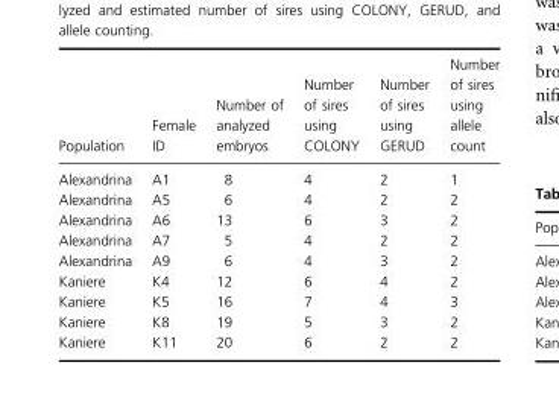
<table><thead><tr><td>Population</td><td>Female ID</td><td>Number of analyzed embryos</td><td>Number of sires using COLONY</td><td>Number of sires using GERUD</td><td>Number of sires using allele count</td></tr></thead><tbody><tr><td>Alexandrina</td><td>A1</td><td>8</td><td>4</td><td>2</td><td>1</td></tr><tr><td>Alexandrina</td><td>A5</td><td>6</td><td>4</td><td>2</td><td>2</td></tr><tr><td>Alexandrina</td><td>A6</td><td>13</td><td>6</td><td>3</td><td>2</td></tr><tr><td>Alexandrina</td><td>A7</td><td>5</td><td>4</td><td>2</td><td>2</td></tr><tr><td>Alexandrina</td><td>A9</td><td>6</td><td>4</td><td>3</td><td>2</td></tr><tr><td>Kaniere</td><td>K4</td><td>12</td><td>6</td><td>4</td><td>2</td></tr><tr><td>Kaniere</td><td>K5</td><td>16</td><td>7</td><td>4</td><td>3</td></tr><tr><td>Kaniere</td><td>K8</td><td>19</td><td>5</td><td>3</td><td>2</td></tr><tr><td>Kaniere</td><td>K11</td><td>20</td><td>6</td><td>2</td><td>2</td></tr></tbody></table>